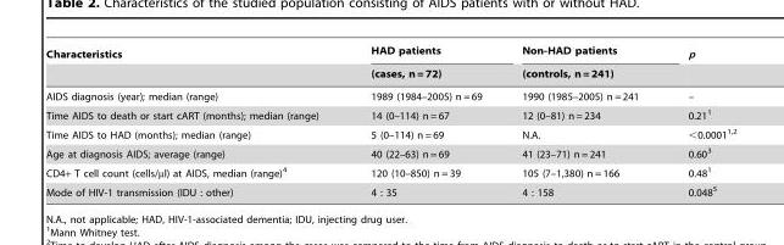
<table><thead><tr><td rowspan="2">Characteristics</td><td rowspan="2">HAD patients (cases, n = 72)</td><td rowspan="2">Non-HAD patients (controls, n = 241)</td><td rowspan="2">p</td></tr><tr></tr></thead><tbody><tr><td>AIDS diagnosis (year); median (range)</td><td>1989 (1984–2005) n = 69</td><td>1990 (1985–2005) n = 241</td><td>–</td></tr><tr><td>Time AIDS to death or start cART (months); median (range)</td><td>14 (0–114) n = 67</td><td>12 (0–81) n = 234</td><td>0.21<sup>1</sup></td></tr><tr><td>Time AIDS to HAD (months); median (range)</td><td>5 (0–114) n = 69</td><td>N.A.</td><td>&lt;0.0001<sup>1,</sup>2</td></tr><tr><td>Age at diagnosis AIDS; average (range)</td><td>40 (22–63) n = 69</td><td>41 (23–71) n = 241</td><td>0.60<sup>3</sup></td></tr><tr><td>CD4+ T cell count (cells/µl) at AIDS, median (range)<sup>4</sup></td><td>120 (10–850) n = 39</td><td>105 (7–1,380) n = 166</td><td>0.48<sup>1</sup></td></tr><tr><td>Mode of HIV-1 transmission (IDU : other)</td><td>4 : 35</td><td>4 : 158</td><td>0.048<sup>5</sup></td></tr></tbody></table>